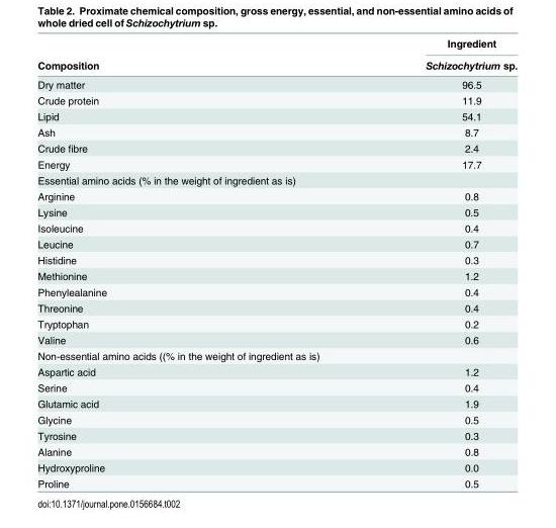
<table><thead><tr><td rowspan="2">Composition</td><td rowspan="2">Ingredient Schizochytrium sp.</td></tr><tr></tr></thead><tbody><tr><td>Dry matter</td><td>96.5</td></tr><tr><td>Crude protein</td><td>11.9</td></tr><tr><td>Lipid</td><td>54.1</td></tr><tr><td>Ash</td><td>8.7</td></tr><tr><td>Crude fibre</td><td>2.4</td></tr><tr><td>Energy</td><td>17.7</td></tr><tr><td colspan="2">Essential amino acids (% in the weight of ingredient as is)</td></tr><tr><td>Arginine</td><td>0.8</td></tr><tr><td>Lysine</td><td>0.5</td></tr><tr><td>Isoleucine</td><td>0.4</td></tr><tr><td>Leucine</td><td>0.7</td></tr><tr><td>Histidine</td><td>0.3</td></tr><tr><td>Methionine</td><td>1.2</td></tr><tr><td>Phenylealanine</td><td>0.4</td></tr><tr><td>Threonine</td><td>0.4</td></tr><tr><td>Tryptophan</td><td>0.2</td></tr><tr><td>Valine</td><td>0.6</td></tr><tr><td colspan="2">Non-essential amino acids ((% in the weight of ingredient as is)</td></tr><tr><td>Aspartic acid</td><td>1.2</td></tr><tr><td>Serine</td><td>0.4</td></tr><tr><td>Glutamic acid</td><td>1.9</td></tr><tr><td>Glycine</td><td>0.5</td></tr><tr><td>Tyrosine</td><td>0.3</td></tr><tr><td>Alanine</td><td>0.8</td></tr><tr><td>Hydroxyproline</td><td>0.0</td></tr><tr><td>Proline</td><td>0.5</td></tr></tbody></table>